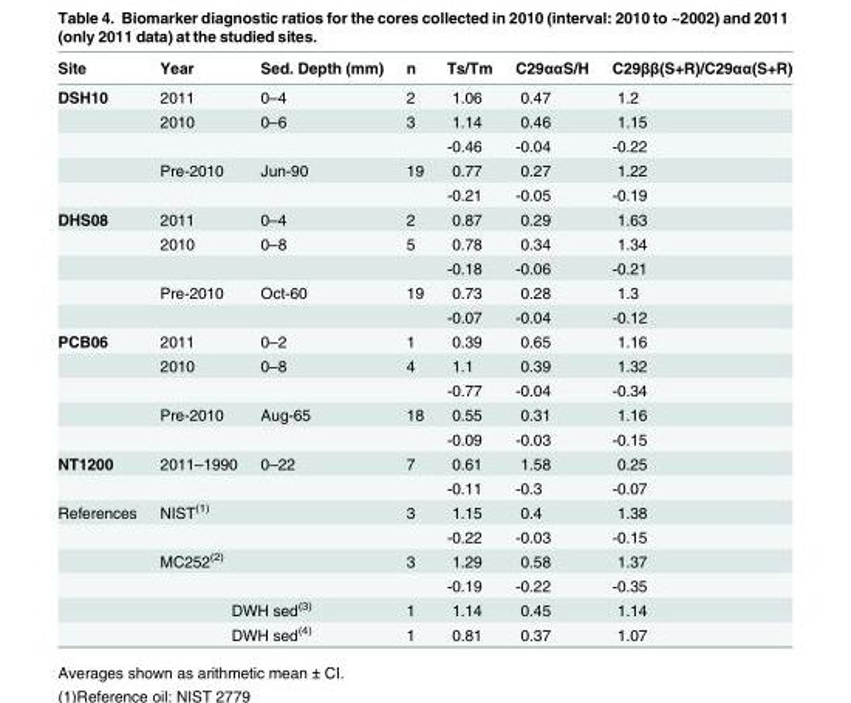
<table><thead><tr><td>Site</td><td>Year</td><td>Sed. Depth (mm)</td><td>n</td><td>Ts/Tm</td><td>C29ααS/H</td><td>C29ββ(S+R)/C29αα(S+R)</td></tr></thead><tbody><tr><td rowspan="5">DSH10</td><td>2011</td><td>0–4</td><td>2</td><td>1.06</td><td>0.47</td><td>1.2</td></tr><tr><td>2010</td><td>0–6</td><td>3</td><td>1.14</td><td>0.46</td><td>1.15</td></tr><tr><td></td><td></td><td></td><td>-0.46</td><td>-0.04</td><td>-0.22</td></tr><tr><td>Pre-2010</td><td>Jun-90</td><td>19</td><td>0.77</td><td>0.27</td><td>1.22</td></tr><tr><td></td><td></td><td></td><td>-0.21</td><td>-0.05</td><td>-0.19</td></tr><tr><td rowspan="5">DHS08</td><td>2011</td><td>0–4</td><td>2</td><td>0.87</td><td>0.29</td><td>1.63</td></tr><tr><td>2010</td><td>0–8</td><td>5</td><td>0.78</td><td>0.34</td><td>1.34</td></tr><tr><td></td><td></td><td></td><td>-0.18</td><td>-0.06</td><td>-0.21</td></tr><tr><td>Pre-2010</td><td>Oct-60</td><td>19</td><td>0.73</td><td>0.28</td><td>1.3</td></tr><tr><td></td><td></td><td></td><td>-0.07</td><td>-0.04</td><td>-0.12</td></tr><tr><td rowspan="5">PCB06</td><td>2011</td><td>0–2</td><td>1</td><td>0.39</td><td>0.65</td><td>1.16</td></tr><tr><td>2010</td><td>0–8</td><td>4</td><td>1.1</td><td>0.39</td><td>1.32</td></tr><tr><td></td><td></td><td></td><td>-0.77</td><td>-0.04</td><td>-0.34</td></tr><tr><td>Pre-2010</td><td>Aug-65</td><td>18</td><td>0.55</td><td>0.31</td><td>1.16</td></tr><tr><td></td><td></td><td></td><td>-0.09</td><td>-0.03</td><td>-0.15</td></tr><tr><td rowspan="2">NT1200</td><td>2011–1990</td><td>0–22</td><td>7</td><td>0.61</td><td>1.58</td><td>0.25</td></tr><tr><td></td><td></td><td></td><td>-0.11</td><td>-0.3</td><td>-0.07</td></tr><tr><td rowspan="6">References</td><td>NIST<sup>(1)</sup></td><td></td><td>3</td><td>1.15</td><td>0.4</td><td>1.38</td></tr><tr><td></td><td></td><td></td><td>-0.22</td><td>-0.03</td><td>-0.15</td></tr><tr><td>MC252<sup>(2)</sup></td><td></td><td>3</td><td>1.29</td><td>0.58</td><td>1.37</td></tr><tr><td></td><td></td><td></td><td>-0.19</td><td>-0.22</td><td>-0.35</td></tr><tr><td colspan="2">DWH sed<sup>(3)</sup></td><td>1</td><td>1.14</td><td>0.45</td><td>1.14</td></tr><tr><td colspan="2">DWH sed<sup>(4)</sup></td><td>1</td><td>0.81</td><td>0.37</td><td>1.07</td></tr></tbody></table>